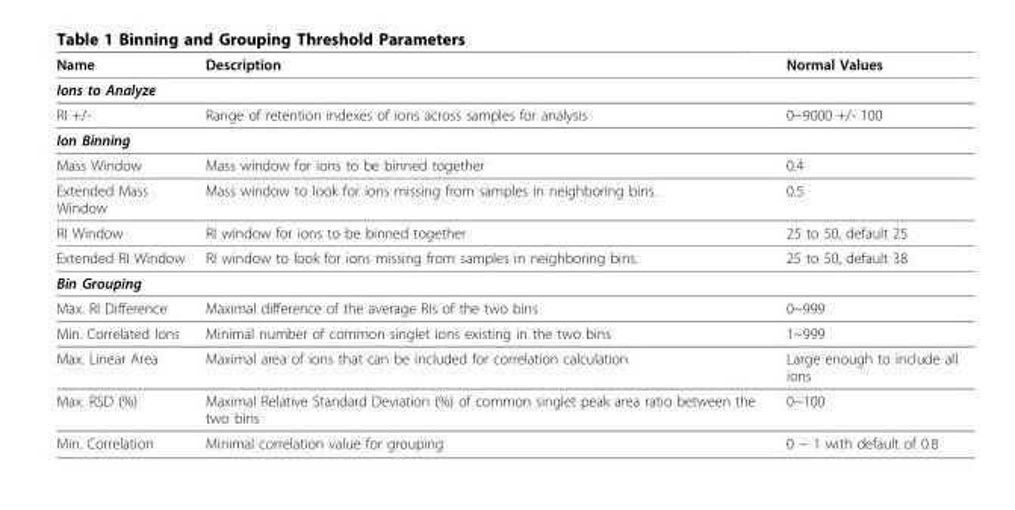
<table><thead><tr><td>Name</td><td>Description</td><td>Normal Values</td></tr></thead><tbody><tr><td colspan="3">Ions to Analyze</td></tr><tr><td>RI +/-</td><td>Range of retention indexes of ions across samples for analysis</td><td>0~9000 +/- 100</td></tr><tr><td colspan="3">Ion Binning</td></tr><tr><td>Mass Window</td><td>Mass window for ions to be binned together</td><td>0.4</td></tr><tr><td>Extended Mass Window</td><td>Mass window to look for ions missing from samples in neighboring bins.</td><td>0.5</td></tr><tr><td>RI Window</td><td>RI window for ions to be binned together</td><td>25 to 50, default 25</td></tr><tr><td>Extended RI Window</td><td>RI window to look for ions missing from samples in neighboring bins.</td><td>25 to 50, default 38</td></tr><tr><td colspan="3">Bin Grouping</td></tr><tr><td>Max. RI Difference</td><td>Maximal difference of the average RIs of the two bins</td><td>0~999</td></tr><tr><td>Min. Correlated Ions</td><td>Minimal number of common singlet ions existing in the two bins</td><td>1~999</td></tr><tr><td>Max. Linear Area</td><td>Maximal area of ions that can be included for correlation calculation</td><td>Large enough to include all ions</td></tr><tr><td>Max. RSD (%)</td><td>Maximal Relative Standard Deviation (%) of common singlet peak area ratio between the two bins</td><td>0~100</td></tr><tr><td>Min. Correlation</td><td>Minimal correlation value for grouping</td><td>0 ~ 1 with default of 0.8</td></tr></tbody></table>